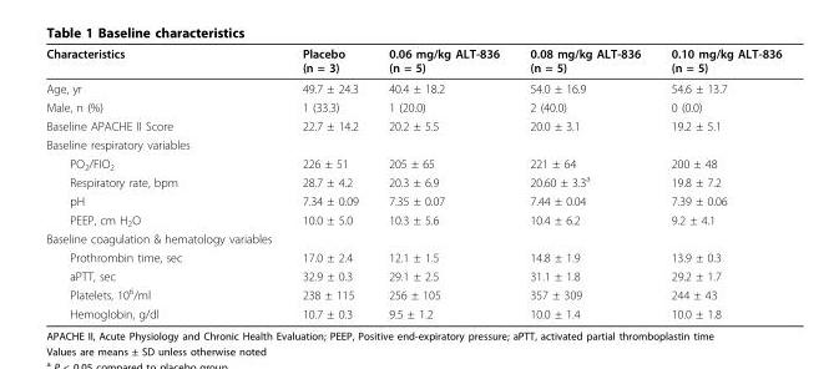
<table><thead><tr><td>Characteristics</td><td>Placebo (n = 3)</td><td>0.06 mg/kg ALT-836 (n = 5)</td><td>0.08 mg/kg ALT-836 (n = 5)</td><td>0.10 mg/kg ALT-836 (n = 5)</td></tr></thead><tbody><tr><td>Age, yr</td><td>49.7 ± 24.3</td><td>40.4 ± 18.2</td><td>54.0 ± 16.9</td><td>54.6 ± 13.7</td></tr><tr><td>Male, n (%)</td><td>1 (33.3)</td><td>1 (20.0)</td><td>2 (40.0)</td><td>0 (0.0)</td></tr><tr><td>Baseline APACHE II Score</td><td>22.7 ± 14.2</td><td>20.2 ± 5.5</td><td>20.0 ± 3.1</td><td>19.2 ± 5.1</td></tr><tr><td colspan="5">Baseline respiratory variables</td></tr><tr><td>PO<sub>2</sub>/FIO<sub>2</sub></td><td>226 ± 51</td><td>205 ± 65</td><td>221 ± 64</td><td>200 ± 48</td></tr><tr><td>Respiratory rate, bpm</td><td>28.7 ± 4.2</td><td>20.3 ± 6.9</td><td>20.60 ± 3.3<sup>a</sup></td><td>19.8 ± 7.2</td></tr><tr><td>pH</td><td>7.34 ± 0.09</td><td>7.35 ± 0.07</td><td>7.44 ± 0.04</td><td>7.39 ± 0.06</td></tr><tr><td>PEEP, cm H<sub>2</sub>O</td><td>10.0 ± 5.0</td><td>10.3 ± 5.6</td><td>10.4 ± 6.2</td><td>9.2 ± 4.1</td></tr><tr><td colspan="5">Baseline coagulation &amp; hematology variables</td></tr><tr><td>Prothrombin time, sec</td><td>17.0 ± 2.4</td><td>12.1 ± 1.5</td><td>14.8 ± 1.9</td><td>13.9 ± 0.3</td></tr><tr><td>aPTT, sec</td><td>32.9 ± 0.3</td><td>29.1 ± 2.5</td><td>31.1 ± 1.8</td><td>29.2 ± 1.7</td></tr><tr><td>Platelets, 10<sup>6</sup>/ml</td><td>238 ± 115</td><td>256 ± 105</td><td>357 ± 309</td><td>244 ± 43</td></tr><tr><td>Hemoglobin, g/dl</td><td>10.7 ± 0.3</td><td>9.5 ± 1.2</td><td>10.0 ± 1.4</td><td>10.0 ± 1.8</td></tr></tbody></table>